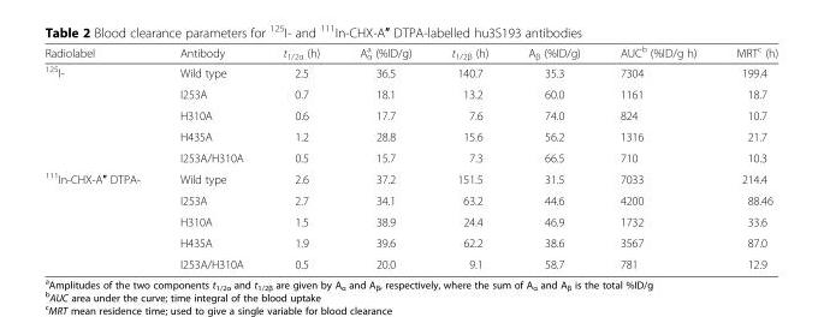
<table><thead><tr><td>Radiolabel</td><td>Antibody</td><td>t<sub>1/2α</sub> (h)</td><td>A<sub>α</sub> <sup>a</sup> (%ID/g)</td><td>t<sub>1/2β</sub> (h)</td><td>A<sub>β</sub> (%ID/g)</td><td>AUC<sup>b</sup> (%ID/g h)</td><td>MRT<sup>c</sup> (h)</td></tr></thead><tbody><tr><td rowspan="5"><sup>125</sup>I-</td><td>Wild type</td><td>2.5</td><td>36.5</td><td>140.7</td><td>35.3</td><td>7304</td><td>199.4</td></tr><tr><td>I253A</td><td>0.7</td><td>18.1</td><td>13.2</td><td>60.0</td><td>1161</td><td>18.7</td></tr><tr><td>H310A</td><td>0.6</td><td>17.7</td><td>7.6</td><td>74.0</td><td>824</td><td>10.7</td></tr><tr><td>H435A</td><td>1.2</td><td>28.8</td><td>15.6</td><td>56.2</td><td>1316</td><td>21.7</td></tr><tr><td>I253A/H310A</td><td>0.5</td><td>15.7</td><td>7.3</td><td>66.5</td><td>710</td><td>10.3</td></tr><tr><td rowspan="5"><sup>111</sup>In-CHX-A″ DTPA-</td><td>Wild type</td><td>2.6</td><td>37.2</td><td>151.5</td><td>31.5</td><td>7033</td><td>214.4</td></tr><tr><td>I253A</td><td>2.7</td><td>34.1</td><td>63.2</td><td>44.6</td><td>4200</td><td>88.46</td></tr><tr><td>H310A</td><td>1.5</td><td>38.9</td><td>24.4</td><td>46.9</td><td>1732</td><td>33.6</td></tr><tr><td>H435A</td><td>1.9</td><td>39.6</td><td>62.2</td><td>38.6</td><td>3567</td><td>87.0</td></tr><tr><td>I253A/H310A</td><td>0.5</td><td>20.0</td><td>9.1</td><td>58.7</td><td>781</td><td>12.9</td></tr></tbody></table>